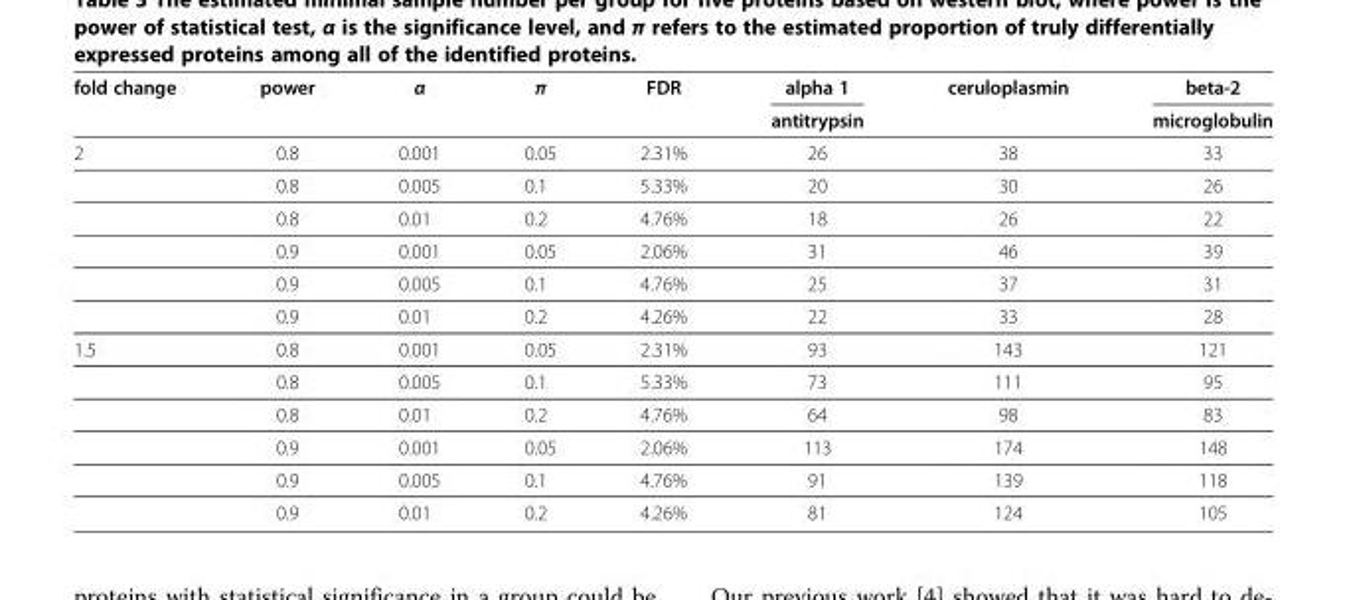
<table><thead><tr><td rowspan="2">fold change</td><td rowspan="2">power</td><td rowspan="2">α</td><td rowspan="2">π</td><td rowspan="2">FDR</td><td rowspan="2">alpha 1 antitrypsin</td><td rowspan="2">ceruloplasmin</td><td rowspan="2">beta-2 microglobulin</td></tr><tr></tr></thead><tbody><tr><td rowspan="6">2</td><td>0.8</td><td>0.001</td><td>0.05</td><td>2.31%</td><td>26</td><td>38</td><td>33</td></tr><tr><td>0.8</td><td>0.005</td><td>0.1</td><td>5.33%</td><td>20</td><td>30</td><td>26</td></tr><tr><td>0.8</td><td>0.01</td><td>0.2</td><td>4.76%</td><td>18</td><td>26</td><td>22</td></tr><tr><td>0.9</td><td>0.001</td><td>0.05</td><td>2.06%</td><td>31</td><td>46</td><td>39</td></tr><tr><td>0.9</td><td>0.005</td><td>0.1</td><td>4.76%</td><td>25</td><td>37</td><td>31</td></tr><tr><td>0.9</td><td>0.01</td><td>0.2</td><td>4.26%</td><td>22</td><td>33</td><td>28</td></tr><tr><td rowspan="6">1.5</td><td>0.8</td><td>0.001</td><td>0.05</td><td>2.31%</td><td>93</td><td>143</td><td>121</td></tr><tr><td>0.8</td><td>0.005</td><td>0.1</td><td>5.33%</td><td>73</td><td>111</td><td>95</td></tr><tr><td>0.8</td><td>0.01</td><td>0.2</td><td>4.76%</td><td>64</td><td>98</td><td>83</td></tr><tr><td>0.9</td><td>0.001</td><td>0.05</td><td>2.06%</td><td>113</td><td>174</td><td>148</td></tr><tr><td>0.9</td><td>0.005</td><td>0.1</td><td>4.76%</td><td>91</td><td>139</td><td>118</td></tr><tr><td>0.9</td><td>0.01</td><td>0.2</td><td>4.26%</td><td>81</td><td>124</td><td>105</td></tr></tbody></table>